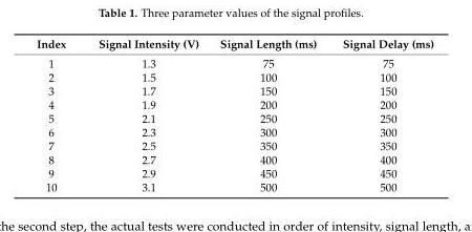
<table><thead><tr><td>Index</td><td>Signal Intensity (V)</td><td>Signal Length (ms)</td><td>Signal Delay (ms)</td></tr></thead><tbody><tr><td>1</td><td>1.3</td><td>75</td><td>75</td></tr><tr><td>2</td><td>1.5</td><td>100</td><td>100</td></tr><tr><td>3</td><td>1.7</td><td>150</td><td>150</td></tr><tr><td>4</td><td>1.9</td><td>200</td><td>200</td></tr><tr><td>5</td><td>2.1</td><td>250</td><td>250</td></tr><tr><td>6</td><td>2.3</td><td>300</td><td>300</td></tr><tr><td>7</td><td>2.5</td><td>350</td><td>350</td></tr><tr><td>8</td><td>2.7</td><td>400</td><td>400</td></tr><tr><td>9</td><td>2.9</td><td>450</td><td>450</td></tr><tr><td>10</td><td>3.1</td><td>500</td><td>500</td></tr></tbody></table>